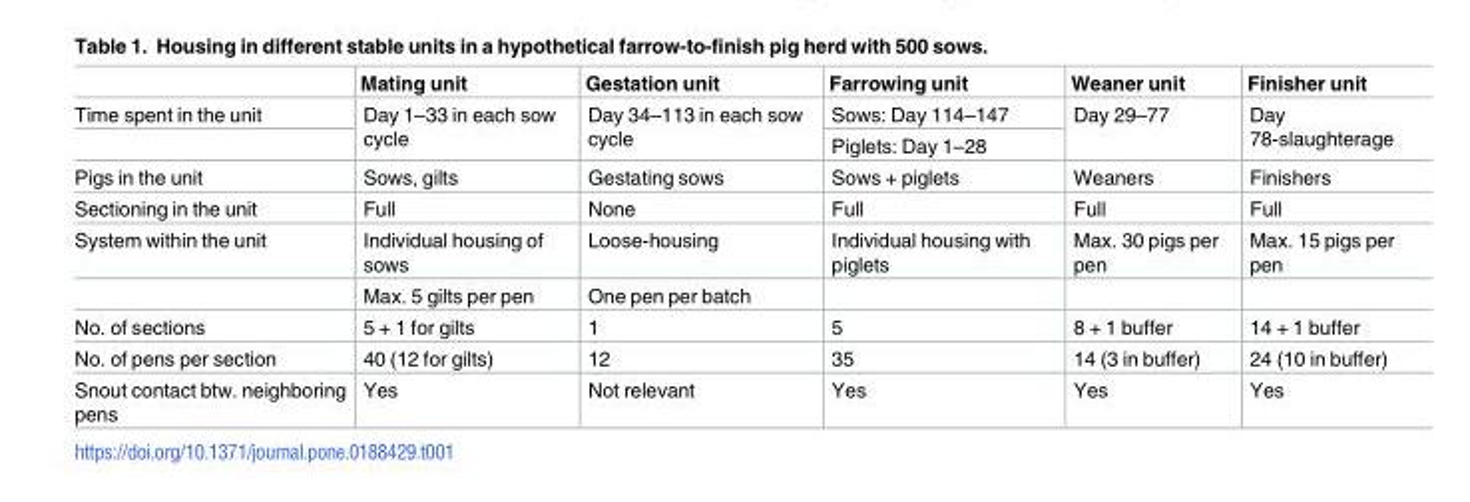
<table><thead><tr><td></td><td>Mating unit</td><td>Gestation unit</td><td>Farrowing unit</td><td>Weaner unit</td><td>Finisher unit</td></tr></thead><tbody><tr><td rowspan="2">Time spent in the unit</td><td rowspan="2">Day 1–33 in each sow cycle</td><td rowspan="2">Day 34–113 in each sow cycle</td><td>Sows: Day 114–147</td><td rowspan="2">Day 29–77</td><td rowspan="2">Day 78-slaughterage</td></tr><tr><td>Piglets: Day 1–28</td></tr><tr><td>Pigs in the unit</td><td>Sows, gilts</td><td>Gestating sows</td><td>Sows + piglets</td><td>Weaners</td><td>Finishers</td></tr><tr><td>Sectioning in the unit</td><td>Full</td><td>None</td><td>Full</td><td>Full</td><td>Full</td></tr><tr><td rowspan="2">System within the unit</td><td>Individual housing of sows</td><td>Loose-housing</td><td>Individual housing with piglets</td><td>Max. 30 pigs per pen</td><td>Max. 15 pigs per pen</td></tr><tr><td>Max. 5 gilts per pen</td><td>One pen per batch</td><td></td><td></td><td></td></tr><tr><td>No. of sections</td><td>5 + 1 for gilts</td><td>1</td><td>5</td><td>8 + 1 buffer</td><td>14 + 1 buffer</td></tr><tr><td>No. of pens per section</td><td>40 (12 for gilts)</td><td>12</td><td>35</td><td>14 (3 in buffer)</td><td>24 (10 in buffer)</td></tr><tr><td>Snout contact btw. neighboring pens</td><td>Yes</td><td>Not relevant</td><td>Yes</td><td>Yes</td><td>Yes</td></tr></tbody></table>